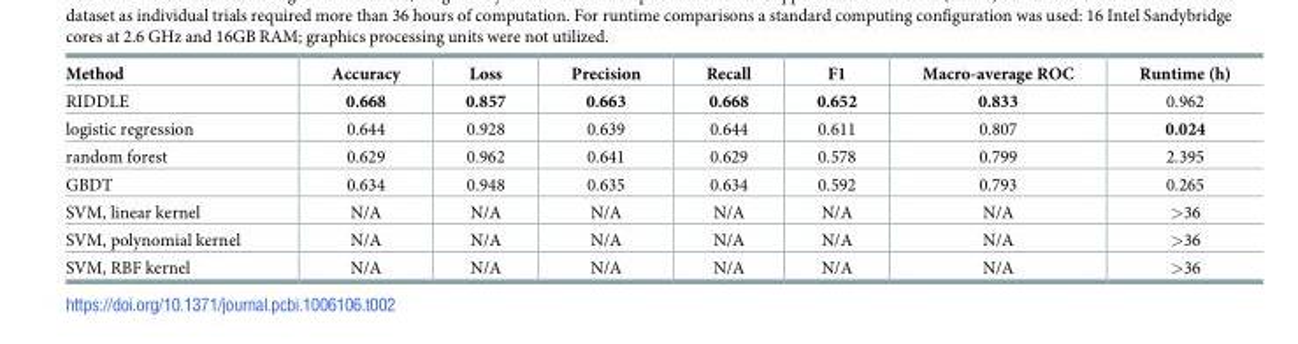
<table><thead><tr><td>Method</td><td>Accuracy</td><td>Loss</td><td>Precision</td><td>Recall</td><td>F1</td><td>Macro-average ROC</td><td>Runtime (h)</td></tr></thead><tbody><tr><td>RIDDLE</td><td>0.668</td><td>0.857</td><td>0.663</td><td>0.668</td><td>0.652</td><td>0.833</td><td>0.962</td></tr><tr><td>logistic regression</td><td>0.644</td><td>0.928</td><td>0.639</td><td>0.644</td><td>0.611</td><td>0.807</td><td>0.024</td></tr><tr><td>random forest</td><td>0.629</td><td>0.962</td><td>0.641</td><td>0.629</td><td>0.578</td><td>0.799</td><td>2.395</td></tr><tr><td>GBDT</td><td>0.634</td><td>0.948</td><td>0.635</td><td>0.634</td><td>0.592</td><td>0.793</td><td>0.265</td></tr><tr><td>SVM, linear kernel</td><td>N/A</td><td>N/A</td><td>N/A</td><td>N/A</td><td>N/A</td><td>N/A</td><td>&gt;36</td></tr><tr><td>SVM, polynomial kernel</td><td>N/A</td><td>N/A</td><td>N/A</td><td>N/A</td><td>N/A</td><td>N/A</td><td>&gt;36</td></tr><tr><td>SVM, RBF kernel</td><td>N/A</td><td>N/A</td><td>N/A</td><td>N/A</td><td>N/A</td><td>N/A</td><td>&gt;36</td></tr></tbody></table>